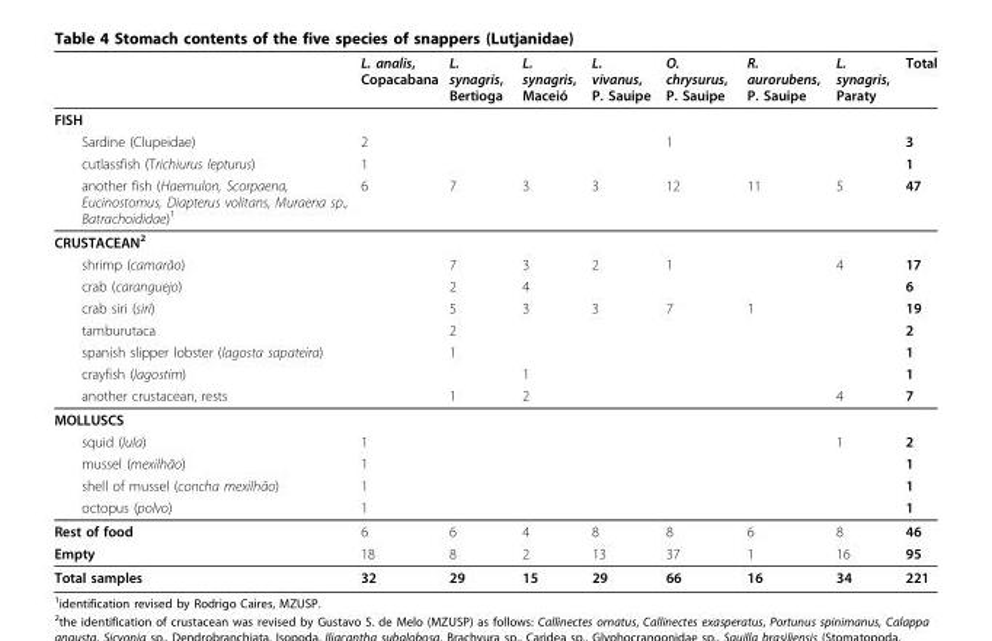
<table><thead><tr><td></td><td>L. analis, Copacabana</td><td>L. synagris, Bertioga</td><td>L. synagris, Maceió</td><td>L. vivanus, P. Sauipe</td><td>O. chrysurus, P. Sauipe</td><td>R. aurorubens, P. Sauipe</td><td>L. synagris, Paraty</td><td>Total</td></tr></thead><tbody><tr><td colspan="9">FISH</td></tr><tr><td>Sardine (Clupeidae)</td><td>2</td><td></td><td></td><td></td><td>1</td><td></td><td></td><td>3</td></tr><tr><td>cutlassfish (Trichiurus lepturus)</td><td>1</td><td></td><td></td><td></td><td></td><td></td><td></td><td>1</td></tr><tr><td>another fish (Haemulon, Scorpaena, Eucinostomus, Diapterus volitans, Muraena sp., Batrachoididae)1</td><td>6</td><td>7</td><td>3</td><td>3</td><td>12</td><td>11</td><td>5</td><td>47</td></tr><tr><td colspan="9">CRUSTACEAN2</td></tr><tr><td>shrimp (camarão)</td><td></td><td>7</td><td>3</td><td>2</td><td>1</td><td></td><td>4</td><td>17</td></tr><tr><td>crab (caranguejo)</td><td></td><td>2</td><td>4</td><td></td><td></td><td></td><td></td><td>6</td></tr><tr><td>crab siri (siri)</td><td></td><td>5</td><td>3</td><td>3</td><td>7</td><td>1</td><td></td><td>19</td></tr><tr><td>tamburutaca</td><td></td><td>2</td><td></td><td></td><td></td><td></td><td></td><td>2</td></tr><tr><td>spanish slipper lobster (lagosta sapateira)</td><td></td><td>1</td><td></td><td></td><td></td><td></td><td></td><td>1</td></tr><tr><td>crayfish (lagostim)</td><td></td><td></td><td>1</td><td></td><td></td><td></td><td></td><td>1</td></tr><tr><td>another crustacean, rests</td><td></td><td>1</td><td>2</td><td></td><td></td><td></td><td>4</td><td>7</td></tr><tr><td colspan="9">MOLLUSCS</td></tr><tr><td>squid (lula)</td><td>1</td><td></td><td></td><td></td><td></td><td></td><td>1</td><td>2</td></tr><tr><td>mussel (mexilhão)</td><td>1</td><td></td><td></td><td></td><td></td><td></td><td></td><td>1</td></tr><tr><td>shell of mussel (concha mexilhão)</td><td>1</td><td></td><td></td><td></td><td></td><td></td><td></td><td>1</td></tr><tr><td>octopus (polvo)</td><td>1</td><td></td><td></td><td></td><td></td><td></td><td></td><td>1</td></tr><tr><td>Rest of food</td><td>6</td><td>6</td><td>4</td><td>8</td><td>8</td><td>6</td><td>8</td><td>46</td></tr><tr><td>Empty</td><td>18</td><td>8</td><td>2</td><td>13</td><td>37</td><td>1</td><td>16</td><td>95</td></tr><tr><td>Total samples</td><td>32</td><td>29</td><td>15</td><td>29</td><td>66</td><td>16</td><td>34</td><td>221</td></tr></tbody></table>